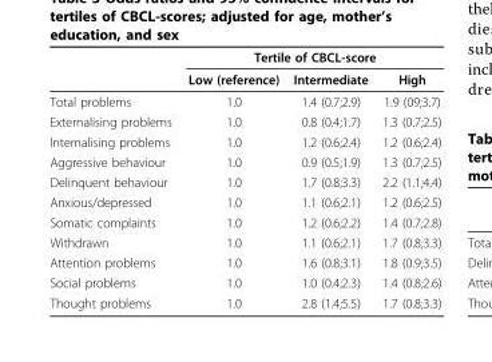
<table><thead><tr><td rowspan="2"></td><td colspan="3">Tertile of CBCL-score</td></tr><tr><td>Low (reference)</td><td>Intermediate</td><td>High</td></tr></thead><tbody><tr><td>Total problems</td><td>1.0</td><td>1.4 (0.7;2.9)</td><td>1.9 (09;3.7)</td></tr><tr><td>Externalising problems</td><td>1.0</td><td>0.8 (0.4;1.7)</td><td>1.3 (0.7;2.5)</td></tr><tr><td>Internalising problems</td><td>1.0</td><td>1.2 (0.6;2.4)</td><td>1.2 (0.6;2.4)</td></tr><tr><td>Aggressive behaviour</td><td>1.0</td><td>0.9 (0.5;1.9)</td><td>1.3 (0.7;2.5)</td></tr><tr><td>Delinquent behaviour</td><td>1.0</td><td>1.7 (0.8;3.3)</td><td>2.2 (1.1;4.4)</td></tr><tr><td>Anxious/depressed</td><td>1.0</td><td>1.1 (0.6;2.1)</td><td>1.2 (0.6;2.5)</td></tr><tr><td>Somatic complaints</td><td>1.0</td><td>1.2 (0.6;2.2)</td><td>1.4 (0.7;2.8)</td></tr><tr><td>Withdrawn</td><td>1.0</td><td>1.1 (0.6;2.1)</td><td>1.7 (0.8;3.3)</td></tr><tr><td>Attention problems</td><td>1.0</td><td>1.6 (0.8;3.1)</td><td>1.8 (0.9;3.5)</td></tr><tr><td>Social problems</td><td>1.0</td><td>1.0 (0.4;2.3)</td><td>1.4 (0.8;2.6)</td></tr><tr><td>Thought problems</td><td>1.0</td><td>2.8 (1.4;5.5)</td><td>1.7 (0.8;3.3)</td></tr></tbody></table>